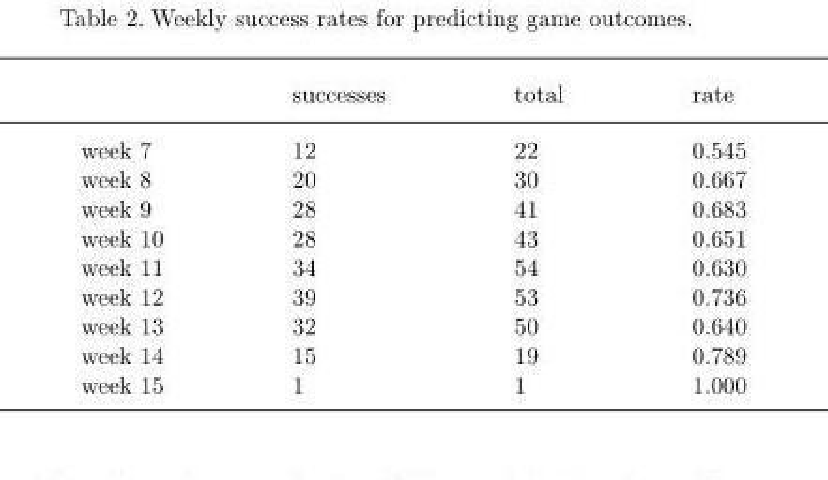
<table><thead><tr><td></td><td>successes</td><td>total</td><td>rate</td></tr></thead><tbody><tr><td>week 7</td><td>12</td><td>22</td><td>0.545</td></tr><tr><td>week 8</td><td>20</td><td>30</td><td>0.667</td></tr><tr><td>week 9</td><td>28</td><td>41</td><td>0.683</td></tr><tr><td>week 10</td><td>28</td><td>43</td><td>0.651</td></tr><tr><td>week 11</td><td>34</td><td>54</td><td>0.630</td></tr><tr><td>week 12</td><td>39</td><td>53</td><td>0.736</td></tr><tr><td>week 13</td><td>32</td><td>50</td><td>0.640</td></tr><tr><td>week 14</td><td>15</td><td>19</td><td>0.789</td></tr><tr><td>week 15</td><td>1</td><td>1</td><td>1.000</td></tr></tbody></table>